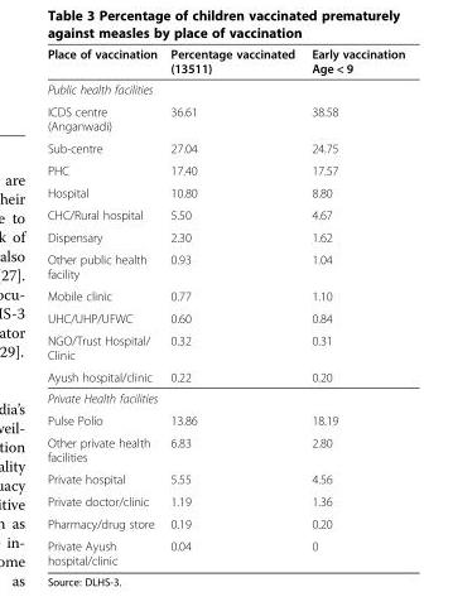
<table><thead><tr><td>Place of vaccination</td><td>Percentage vaccinated (13511)</td><td>Early vaccination Age &lt; 9</td></tr></thead><tbody><tr><td colspan="3">Public health facilities</td></tr><tr><td>ICDS centre (Anganwadi)</td><td>36.61</td><td>38.58</td></tr><tr><td>Sub-centre</td><td>27.04</td><td>24.75</td></tr><tr><td>PHC</td><td>17.40</td><td>17.57</td></tr><tr><td>Hospital</td><td>10.80</td><td>8.80</td></tr><tr><td>CHC/Rural hospital</td><td>5.50</td><td>4.67</td></tr><tr><td>Dispensary</td><td>2.30</td><td>1.62</td></tr><tr><td>Other public health facility</td><td>0.93</td><td>1.04</td></tr><tr><td>Mobile clinic</td><td>0.77</td><td>1.10</td></tr><tr><td>UHC/UHP/UFWC</td><td>0.60</td><td>0.84</td></tr><tr><td>NGO/Trust Hospital/ Clinic</td><td>0.32</td><td>0.31</td></tr><tr><td>Ayush hospital/clinic</td><td>0.22</td><td>0.20</td></tr><tr><td colspan="3">Private Health facilities</td></tr><tr><td>Pulse Polio</td><td>13.86</td><td>18.19</td></tr><tr><td>Other private health facilities</td><td>6.83</td><td>2.80</td></tr><tr><td>Private hospital</td><td>5.55</td><td>4.56</td></tr><tr><td>Private doctor/clinic</td><td>1.19</td><td>1.36</td></tr><tr><td>Pharmacy/drug store</td><td>0.19</td><td>0.20</td></tr><tr><td>Private Ayush hospital/clinic</td><td>0.04</td><td>0</td></tr></tbody></table>